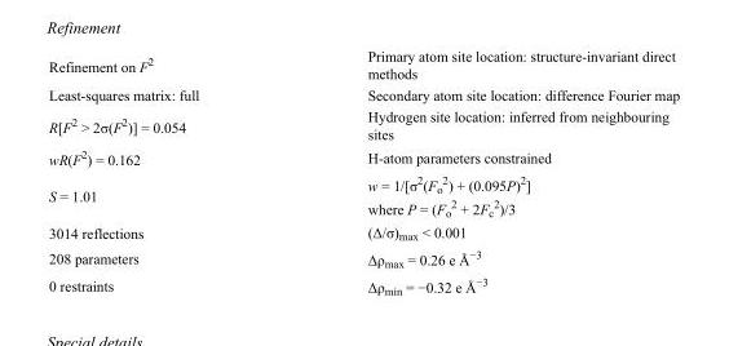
<table><tbody><tr><td>Refinement on F<sup>2</sup></td><td>Primary atom site location: structure-invariant direct methods</td></tr><tr><td>Least-squares matrix: full</td><td>Secondary atom site location: difference Fourier map</td></tr><tr><td>R[F<sup>2</sup> &gt; 2σ(F<sup>2</sup>)] = 0.054</td><td>Hydrogen site location: inferred from neighbouring sites</td></tr><tr><td>wR(F<sup>2</sup>) = 0.162</td><td>H-atom parameters constrained</td></tr><tr><td>S = 1.01</td><td>w = 1/[σ<sup>2</sup>(F<sub>o</sub> <sup>2</sup>) + (0.095P)<sup>2</sup>] where P = (F<sub>o</sub> <sup>2</sup> + 2F<sub>c</sub> <sup>2</sup>)/3</td></tr><tr><td>3014 reflections</td><td>(Δ/σ)<sub>max</sub> &lt; 0.001</td></tr><tr><td>208 parameters</td><td>Δρ<sub>max</sub> = 0.26 e Å<sup>−3</sup></td></tr><tr><td>0 restraints</td><td>Δρmin = −0.32 e Å−3</td></tr></tbody></table>